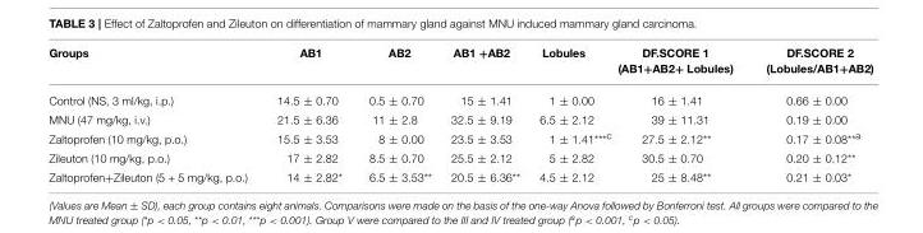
<table><thead><tr><td>Groups</td><td>AB1</td><td>AB2</td><td>AB1 +AB2</td><td>Lobules</td><td>DF.SCORE 1 (AB1+AB2+ Lobules)</td><td>DF.SCORE 2 (Lobules/AB1+AB2)</td></tr></thead><tbody><tr><td>Control (NS, 3 ml/kg, i.p.)</td><td>14.5 ± 0.70</td><td>0.5 ± 0.70</td><td>15 ± 1.41</td><td>1 ± 0.00</td><td>16 ± 1.41</td><td>0.66 ± 0.00</td></tr><tr><td>MNU (47 mg/kg, i.v.)</td><td>21.5 ± 6.36</td><td>11 ± 2.8</td><td>32.5 ± 9.19</td><td>6.5 ± 2.12</td><td>39 ± 11.31</td><td>0.19 ± 0.00</td></tr><tr><td>Zaltoprofen (10 mg/kg, p.o.)</td><td>15.5 ± 3.53</td><td>8 ± 0.00</td><td>23.5 ± 3.53</td><td>1 ± 1.41<sup>***c</sup></td><td>27.5 ± 2.12**</td><td>0.17 ± 0.08<sup>**a</sup></td></tr><tr><td>Zileuton (10 mg/kg, p.o.)</td><td>17 ± 2.82</td><td>8.5 ± 0.70</td><td>25.5 ± 2.12</td><td>5 ± 2.82</td><td>30.5 ± 0.70</td><td>0.20 ± 0.12**</td></tr><tr><td>Zaltoprofen+Zileuton (5 + 5 mg/kg, p.o.)</td><td>14 ± 2.82*</td><td>6.5 ± 3.53**</td><td>20.5 ± 6.36**</td><td>4.5 ± 2.12</td><td>25 ± 8.48**</td><td>0.21 ± 0.03*</td></tr></tbody></table>